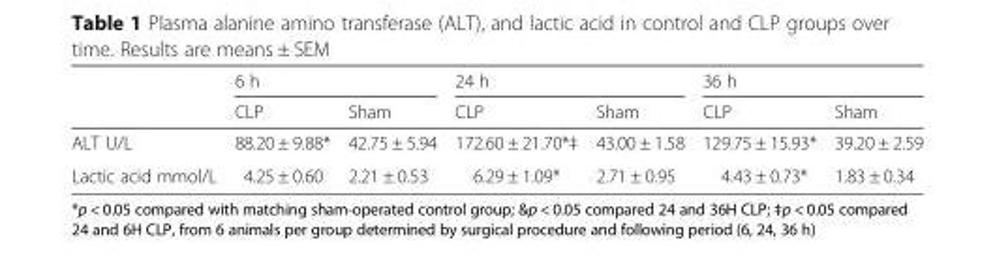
<table><thead><tr><td rowspan="2"></td><td colspan="2">6 h</td><td colspan="2">24 h</td><td colspan="2">36 h</td></tr><tr><td>CLP</td><td>Sham</td><td>CLP</td><td>Sham</td><td>CLP</td><td>Sham</td></tr></thead><tbody><tr><td>ALT U/L</td><td>88.20 ± 9.88*</td><td>42.75 ± 5.94</td><td>172.60 ± 21.70*‡</td><td>43.00 ± 1.58</td><td>129.75 ± 15.93*</td><td>39.20 ± 2.59</td></tr><tr><td>Lactic acid mmol/L</td><td>4.25 ± 0.60</td><td>2.21 ± 0.53</td><td>6.29 ± 1.09*</td><td>2.71 ± 0.95</td><td>4.43 ± 0.73*</td><td>1.83 ± 0.34</td></tr></tbody></table>